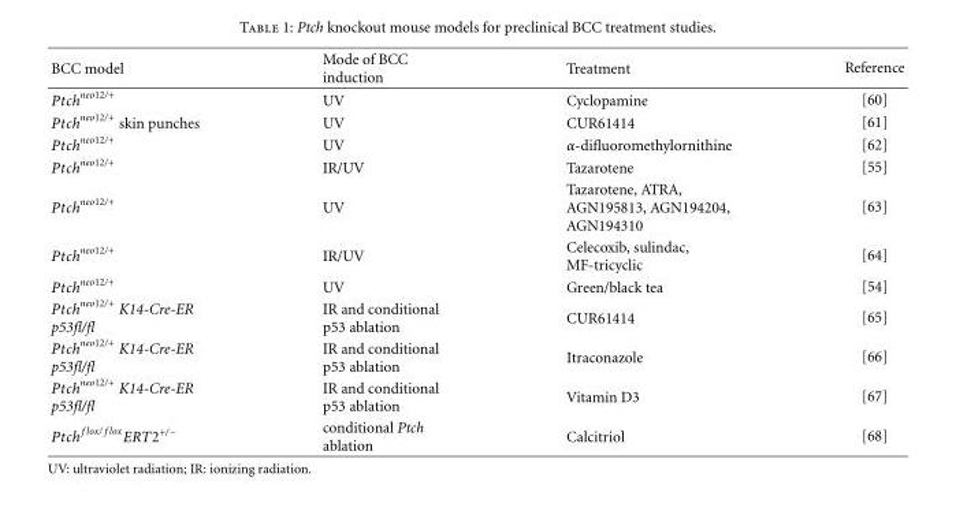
<table><thead><tr><td>BCC model</td><td>Mode of BCC induction</td><td>Treatment</td><td>Reference</td></tr></thead><tbody><tr><td>Ptch<sup>neo12/+</sup></td><td>UV</td><td>Cyclopamine</td><td>[60]</td></tr><tr><td>Ptch<sup>neo12/+</sup> skin punches</td><td>UV</td><td>CUR61414</td><td>[61]</td></tr><tr><td>Ptch<sup>neo12/+</sup></td><td>UV</td><td>α-difluoromethylornithine</td><td>[62]</td></tr><tr><td>Ptch<sup>neo12/+</sup></td><td>IR/UV</td><td>Tazarotene</td><td>[55]</td></tr><tr><td>Ptch<sup>neo12/+</sup></td><td>UV</td><td>Tazarotene, ATRA, AGN195813, AGN194204, AGN194310</td><td>[63]</td></tr><tr><td>Ptch<sup>neo12/+</sup></td><td>IR/UV</td><td>Celecoxib, sulindac, MF-tricyclic</td><td>[64]</td></tr><tr><td>Ptch<sup>neo12/+</sup></td><td>UV</td><td>Green/black tea</td><td>[54]</td></tr><tr><td>Ptch<sup>neo12/+</sup> K14-Cre-ER p53fl/fl</td><td>IR and conditional p53 ablation</td><td>CUR61414</td><td>[65]</td></tr><tr><td>Ptch<sup>neo12/+</sup> K14-Cre-ER p53fl/fl</td><td>IR and conditional p53 ablation</td><td>Itraconazole</td><td>[66]</td></tr><tr><td>Ptch<sup>neo12/+</sup> K14-Cre-ER p53fl/fl</td><td>IR and conditional p53 ablation</td><td>Vitamin D3</td><td>[67]</td></tr><tr><td>Ptch <sup>f lox/ f lox</sup>ERT2<sup>+/−</sup></td><td>conditional Ptch ablation</td><td>Calcitriol</td><td>[68]</td></tr></tbody></table>